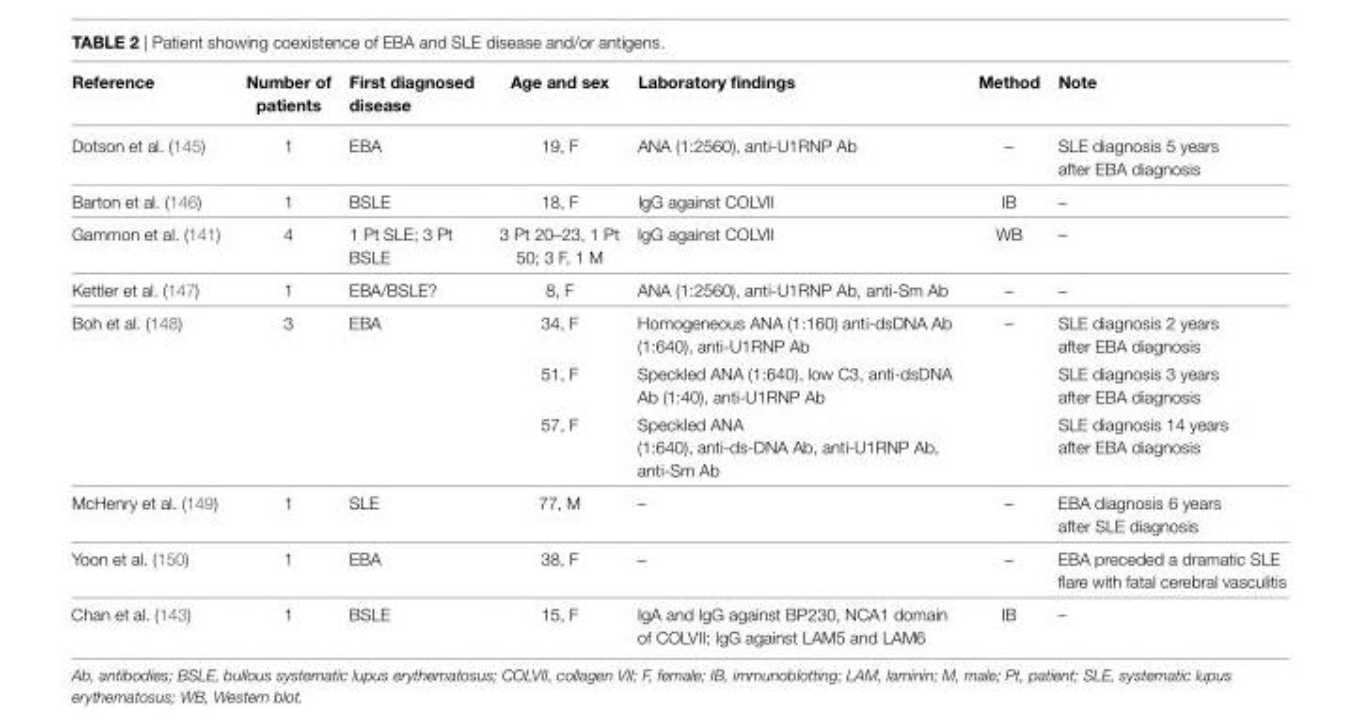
<table><thead><tr><td>Reference</td><td>Number of patients</td><td>First diagnosed disease</td><td>Age and sex</td><td>Laboratory findings</td><td>Method</td><td>Note</td></tr></thead><tbody><tr><td>Dotson et al. (145)</td><td>1</td><td>EBA</td><td>19, F</td><td>ANA (1:2560), anti-U1RNP Ab</td><td>–</td><td>SLE diagnosis 5 years after EBA diagnosis</td></tr><tr><td>Barton et al. (146)</td><td>1</td><td>BSLE</td><td>18, F</td><td>IgG against COLVII</td><td>IB</td><td>–</td></tr><tr><td>Gammon et al. (141)</td><td>4</td><td>1 Pt SLE; 3 Pt BSLE</td><td>3 Pt 20–23, 1 Pt 50; 3 F, 1 M</td><td>IgG against COLVII</td><td>WB</td><td>–</td></tr><tr><td>Kettler et al. (147)</td><td>1</td><td>EBA/BSLE?</td><td>8, F</td><td>ANA (1:2560), anti-U1RNP Ab, anti-Sm Ab</td><td>–</td><td>–</td></tr><tr><td rowspan="3">Boh et al. (148)</td><td rowspan="3">3</td><td rowspan="3">EBA</td><td>34, F</td><td>Homogeneous ANA (1:160) anti-dsDNA Ab (1:640), anti-U1RNP Ab</td><td rowspan="3">–</td><td>SLE diagnosis 2 years after EBA diagnosis</td></tr><tr><td>51, F</td><td>Speckled ANA (1:640), low C3, anti-dsDNA Ab (1:40), anti-U1RNP Ab</td><td>SLE diagnosis 3 years after EBA diagnosis</td></tr><tr><td>57, F</td><td>Speckled ANA (1:640), anti-ds-DNA Ab, anti-U1RNP Ab, anti-Sm Ab</td><td>SLE diagnosis 14 years after EBA diagnosis</td></tr><tr><td>McHenry et al. (149)</td><td>1</td><td>SLE</td><td>77, M</td><td>–</td><td>–</td><td>EBA diagnosis 6 years after SLE diagnosis</td></tr><tr><td>Yoon et al. (150)</td><td>1</td><td>EBA</td><td>38, F</td><td>–</td><td>–</td><td>EBA preceded a dramatic SLE flare with fatal cerebral vasculitis</td></tr><tr><td>Chan et al. (143)</td><td>1</td><td>BSLE</td><td>15, F</td><td>IgA and IgG against BP230, NCA1 domain of COLVII; IgG against LAM5 and LAM6</td><td>IB</td><td>–</td></tr></tbody></table>